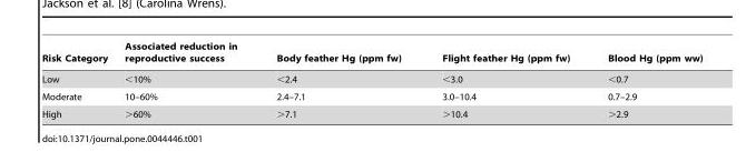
<table><thead><tr><td>Risk Category</td><td>Associated reduction in reproductive success</td><td>Body feather Hg (ppm fw)</td><td>Flight feather Hg (ppm fw)</td><td>Blood Hg (ppm ww)</td></tr></thead><tbody><tr><td>Low</td><td>&lt;10%</td><td>&lt;2.4</td><td>&lt;3.0</td><td>&lt;0.7</td></tr><tr><td>Moderate</td><td>10–60%</td><td>2.4–7.1</td><td>3.0–10.4</td><td>0.7–2.9</td></tr><tr><td>High</td><td>&gt;60%</td><td>&gt;7.1</td><td>&gt;10.4</td><td>&gt;2.9</td></tr></tbody></table>